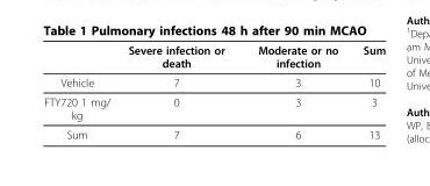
<table><thead><tr><td></td><td>Severe infection or death</td><td>Moderate or no infection</td><td>Sum</td></tr></thead><tbody><tr><td>Vehicle</td><td>7</td><td>3</td><td>10</td></tr><tr><td>FTY720 1 mg/ kg</td><td>0</td><td>3</td><td>3</td></tr><tr><td>Sum</td><td>7</td><td>6</td><td>13</td></tr></tbody></table>